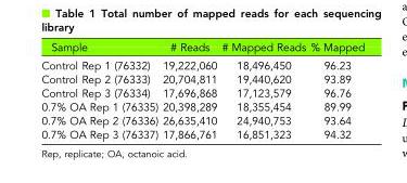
<table><thead><tr><td>Sample</td><td># Reads</td><td># Mapped Reads</td><td>% Mapped</td></tr></thead><tbody><tr><td>Control Rep 1 (76332)</td><td>19,222,060</td><td>18,496,450</td><td>96.23</td></tr><tr><td>Control Rep 2 (76333)</td><td>20,704,811</td><td>19,440,620</td><td>93.89</td></tr><tr><td>Control Rep 3 (76334)</td><td>17,696,868</td><td>17,123,579</td><td>96.76</td></tr><tr><td>0.7% OA Rep 1 (76335)</td><td>20,398,289</td><td>18,355,454</td><td>89.99</td></tr><tr><td>0.7% OA Rep 2 (76336)</td><td>26,635,410</td><td>24,940,753</td><td>93.64</td></tr><tr><td>0.7% OA Rep 3 (76337)</td><td>17,866,761</td><td>16,851,323</td><td>94.32</td></tr></tbody></table>